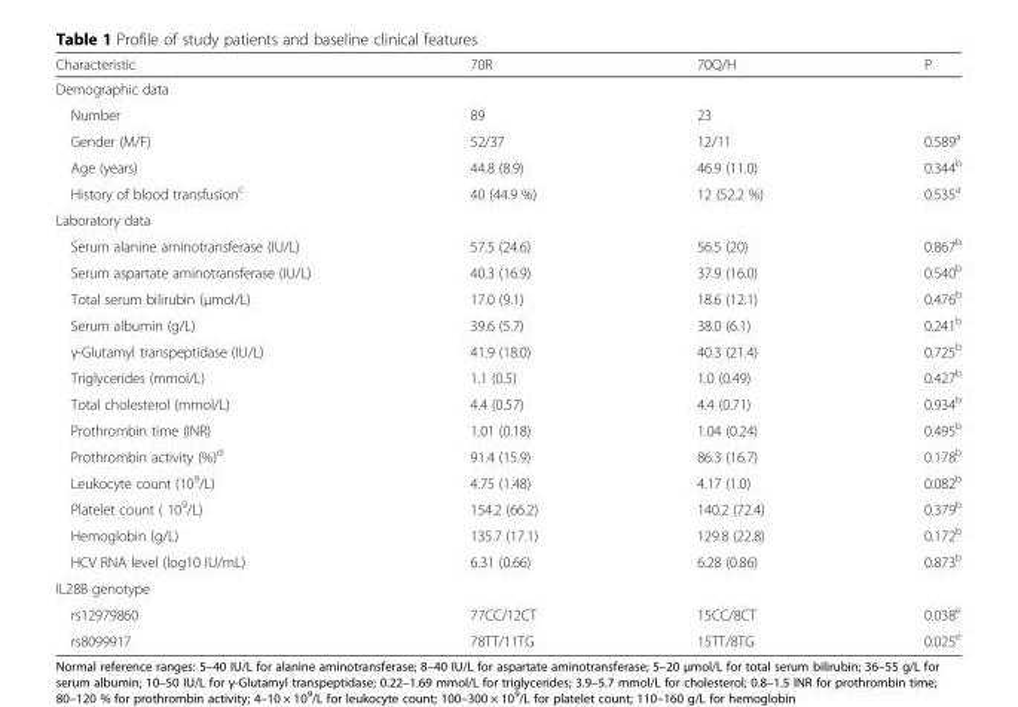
<table><thead><tr><td>Characteristic</td><td>70R</td><td>70Q/H</td><td>P</td></tr></thead><tbody><tr><td colspan="4">Demographic data</td></tr><tr><td>Number</td><td>89</td><td>23</td><td></td></tr><tr><td>Gender (M/F)</td><td>52/37</td><td>12/11</td><td>0.589<sup>a</sup></td></tr><tr><td>Age (years)</td><td>44.8 (8.9)</td><td>46.9 (11.0)</td><td>0.344<sup>b</sup></td></tr><tr><td>History of blood transfusion<sup>c</sup></td><td>40 (44.9 %)</td><td>12 (52.2 %)</td><td>0.535<sup>a</sup></td></tr><tr><td colspan="4">Laboratory data</td></tr><tr><td>Serum alanine aminotransferase (IU/L)</td><td>57.5 (24.6)</td><td>56.5 (20)</td><td>0.867<sup>b</sup></td></tr><tr><td>Serum aspartate aminotransferase (IU/L)</td><td>40.3 (16.9)</td><td>37.9 (16.0)</td><td>0.540<sup>b</sup></td></tr><tr><td>Total serum bilirubin (μmol/L)</td><td>17.0 (9.1)</td><td>18.6 (12.1)</td><td>0.476<sup>b</sup></td></tr><tr><td>Serum albumin (g/L)</td><td>39.6 (5.7)</td><td>38.0 (6.1)</td><td>0.241<sup>b</sup></td></tr><tr><td>γ-Glutamyl transpeptidase (IU/L)</td><td>41.9 (18.0)</td><td>40.3 (21.4)</td><td>0.725<sup>b</sup></td></tr><tr><td>Triglycerides (mmol/L)</td><td>1.1 (0.5)</td><td>1.0 (0.49)</td><td>0.427<sup>b</sup></td></tr><tr><td>Total cholesterol (mmol/L)</td><td>4.4 (0.57)</td><td>4.4 (0.71)</td><td>0.934<sup>b</sup></td></tr><tr><td>Prothrombin time (INR)</td><td>1.01 (0.18)</td><td>1.04 (0.24)</td><td>0.495<sup>b</sup></td></tr><tr><td>Prothrombin activity (%)<sup>d</sup></td><td>91.4 (15.9)</td><td>86.3 (16.7)</td><td>0.178<sup>b</sup></td></tr><tr><td>Leukocyte count (10<sup>9</sup>/L)</td><td>4.75 (1.48)</td><td>4.17 (1.0)</td><td>0.082<sup>b</sup></td></tr><tr><td>Platelet count ( 10<sup>9</sup>/L)</td><td>154.2 (66.2)</td><td>140.2 (72.4)</td><td>0.379<sup>b</sup></td></tr><tr><td>Hemoglobin (g/L)</td><td>135.7 (17.1)</td><td>129.8 (22.8)</td><td>0.172<sup>b</sup></td></tr><tr><td>HCV RNA level (log10 IU/mL)</td><td>6.31 (0.66)</td><td>6.28 (0.86)</td><td>0.873<sup>b</sup></td></tr><tr><td colspan="4">IL28B genotype</td></tr><tr><td>rs12979860</td><td>77CC/12CT</td><td>15CC/8CT</td><td>0.038<sup>e</sup></td></tr><tr><td>rs8099917</td><td>78TT/11TG</td><td>15TT/8TG</td><td>0.025<sup>e</sup></td></tr></tbody></table>